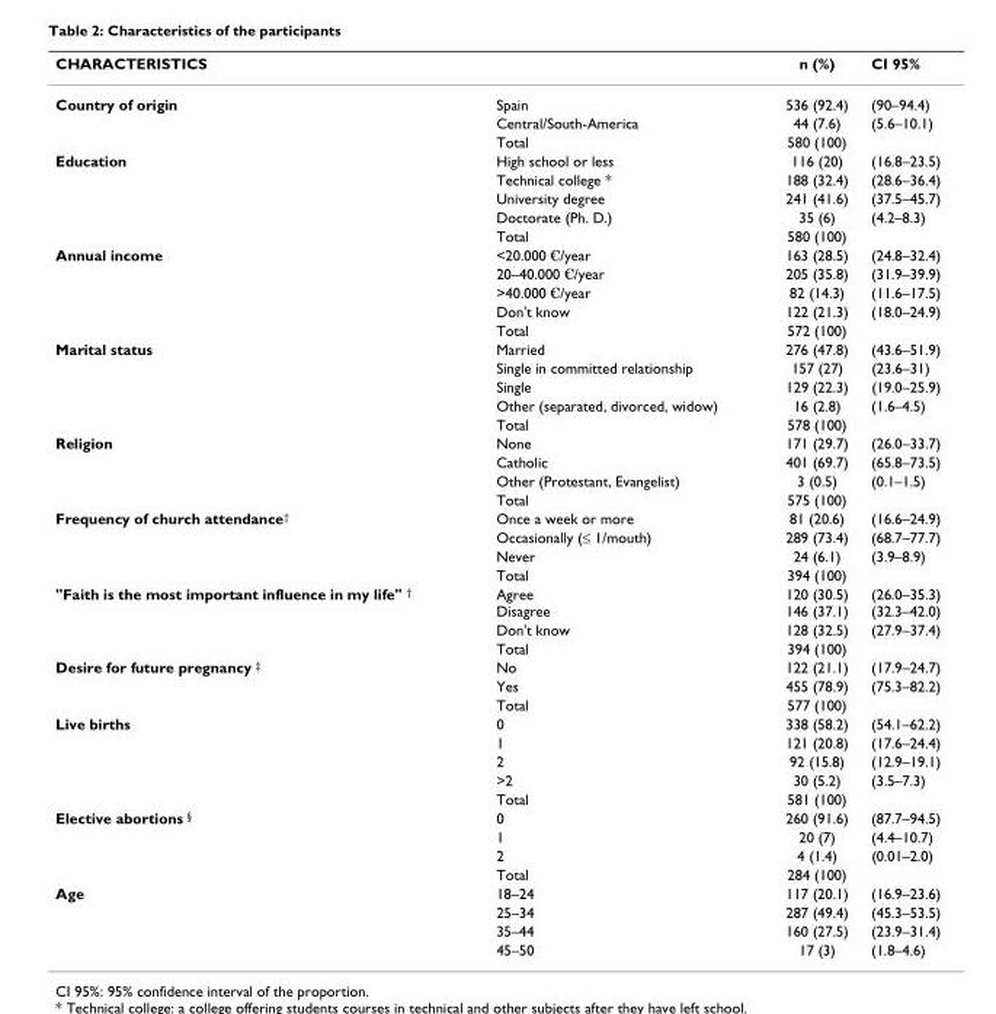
<table><thead><tr><td colspan="2">CHARACTERISTICS</td><td rowspan="2">n (%) 536 (92.4)</td><td rowspan="2">CI 95% (90–94.4)</td></tr><tr><td>Country of origin</td><td>Spain</td></tr></thead><tbody><tr><td></td><td>Central/South-America</td><td>44 (7.6)</td><td>(5.6–10.1)</td></tr><tr><td></td><td>Total</td><td>580 (100)</td><td></td></tr><tr><td rowspan="5">Education</td><td>High school or less</td><td>116 (20)</td><td>(16.8–23.5)</td></tr><tr><td>Technical college *</td><td>188 (32.4)</td><td>(28.6–36.4)</td></tr><tr><td>University degree</td><td>241 (41.6)</td><td>(37.5–45.7)</td></tr><tr><td>Doctorate (Ph. D.)</td><td>35 (6)</td><td>(4.2–8.3)</td></tr><tr><td>Total</td><td>580 (100)</td><td></td></tr><tr><td rowspan="5">Annual income</td><td>&lt;20.000 €/year</td><td>163 (28.5)</td><td>(24.8–32.4)</td></tr><tr><td>20–40.000 €/year</td><td>205 (35.8)</td><td>(31.9–39.9)</td></tr><tr><td>&gt;40.000 €/year</td><td>82 (14.3)</td><td>(11.6–17.5)</td></tr><tr><td>Don&#x27;t know</td><td>122 (21.3)</td><td>(18.0–24.9)</td></tr><tr><td>Total</td><td>572 (100)</td><td></td></tr><tr><td rowspan="5">Marital status</td><td>Married</td><td>276 (47.8)</td><td>(43.6–51.9)</td></tr><tr><td>Single in committed relationship</td><td>157 (27)</td><td>(23.6–31)</td></tr><tr><td>Single</td><td>129 (22.3)</td><td>(19.0–25.9)</td></tr><tr><td>Other (separated, divorced, widow)</td><td>16 (2.8)</td><td>(1.6–4.5)</td></tr><tr><td>Total</td><td>578 (100)</td><td></td></tr><tr><td rowspan="4">Religion</td><td>None</td><td>171 (29.7)</td><td>(26.0–33.7)</td></tr><tr><td>Catholic</td><td>401 (69.7)</td><td>(65.8–73.5)</td></tr><tr><td>Other (Protestant, Evangelist)</td><td>3 (0.5)</td><td>(0.1–1.5)</td></tr><tr><td>Total</td><td>575 (100)</td><td></td></tr><tr><td rowspan="4">Frequency of church attendance<sup>†</sup></td><td>Once a week or more</td><td>81 (20.6)</td><td>(16.6–24.9)</td></tr><tr><td>Occasionally (≤ 1/mouth)</td><td>289 (73.4)</td><td>(68.7–77.7)</td></tr><tr><td>Never</td><td>24 (6.1)</td><td>(3.9–8.9)</td></tr><tr><td>Total</td><td>394 (100)</td><td></td></tr><tr><td rowspan="3">&quot;Faith is the most important influence in my life&quot; <sup>†</sup></td><td>Agree Disagree</td><td>120 (30.5) 146 (37.1)</td><td>(26.0–35.3) (32.3–42.0)</td></tr><tr><td>Don&#x27;t know</td><td>128 (32.5)</td><td>(27.9–37.4)</td></tr><tr><td>Total</td><td>394 (100)</td><td></td></tr><tr><td rowspan="3">Desire for future pregnancy <sup>‡</sup></td><td>No</td><td>122 (21.1)</td><td>(17.9–24.7)</td></tr><tr><td>Yes</td><td>455 (78.9)</td><td>(75.3–82.2)</td></tr><tr><td>Total</td><td>577 (100)</td><td></td></tr><tr><td rowspan="5">Live births</td><td>0</td><td>338 (58.2)</td><td>(54.1–62.2)</td></tr><tr><td>1</td><td>121 (20.8)</td><td>(17.6–24.4)</td></tr><tr><td>2</td><td>92 (15.8)</td><td>(12.9–19.1)</td></tr><tr><td>&gt;2</td><td>30 (5.2)</td><td>(3.5–7.3)</td></tr><tr><td>Total</td><td>581 (100)</td><td></td></tr><tr><td rowspan="4">Elective abortions <sup>§</sup></td><td>0</td><td>260 (91.6)</td><td>(87.7–94.5)</td></tr><tr><td>1</td><td>20 (7)</td><td>(4.4–10.7)</td></tr><tr><td>2</td><td>4 (1.4)</td><td>(0.01–2.0)</td></tr><tr><td>Total</td><td>284 (100)</td><td></td></tr><tr><td rowspan="4">Age</td><td>18–24</td><td>117 (20.1)</td><td>(16.9–23.6)</td></tr><tr><td>25–34</td><td>287 (49.4)</td><td>(45.3–53.5)</td></tr><tr><td>35–44</td><td>160 (27.5)</td><td>(23.9–31.4)</td></tr><tr><td>45–50</td><td>17 (3)</td><td>(1.8–4.6)</td></tr></tbody></table>